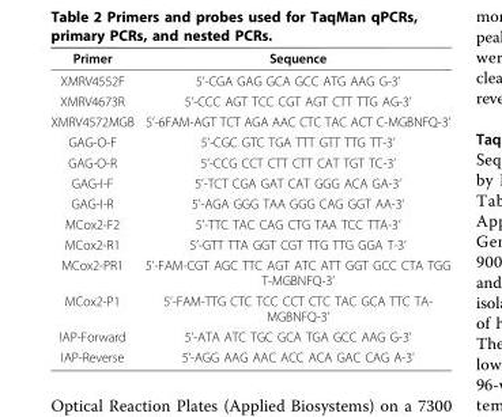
<table><thead><tr><td>Primer</td><td>Sequence</td></tr></thead><tbody><tr><td>XMRV4552F</td><td>5’-CGA GAG GCA GCC ATG AAG G-3’</td></tr><tr><td>XMRV4673R</td><td>5’-CCC AGT TCC CGT AGT CTT TTG AG-3’</td></tr><tr><td>XMRV4572MGB</td><td>5’-6FAM-AGT TCT AGA AAC CTC TAC ACT C-MGBNFQ-3’</td></tr><tr><td>GAG-O-F</td><td>5’-CGC GTC TGA TTT GTT TTG TT-3’</td></tr><tr><td>GAG-O-R</td><td>5’-CCG CCT CTT CTT CAT TGT TC-3’</td></tr><tr><td>GAG-I-F</td><td>5’-TCT CGA GAT CAT GGG ACA GA-3’</td></tr><tr><td>GAG-I-R</td><td>5’-AGA GGG TAA GGG CAG GGT AA-3’</td></tr><tr><td>MCox2-F2</td><td>5’-TTC TAC CAG CTG TAA TCC TTA-3’</td></tr><tr><td>MCox2-R1</td><td>5’-GTT TTA GGT CGT TTG TTG GGA T-3’</td></tr><tr><td>MCox2-PR1</td><td>5’-FAM-CGT AGC TTC AGT ATC ATT GGT GCC CTA TGG T-MGBNFQ-3’</td></tr><tr><td>MCox2-P1</td><td>5’-FAM-TTG CTC TCC CCT CTC TAC GCA TTC TA- MGBNFQ-3’</td></tr><tr><td>IAP-Forward</td><td>5’-ATA ATC TGC GCA TGA GCC AAG G-3’</td></tr><tr><td>IAP-Reverse</td><td>5’-AGG AAG AAC ACC ACA GAC CAG A-3’</td></tr></tbody></table>